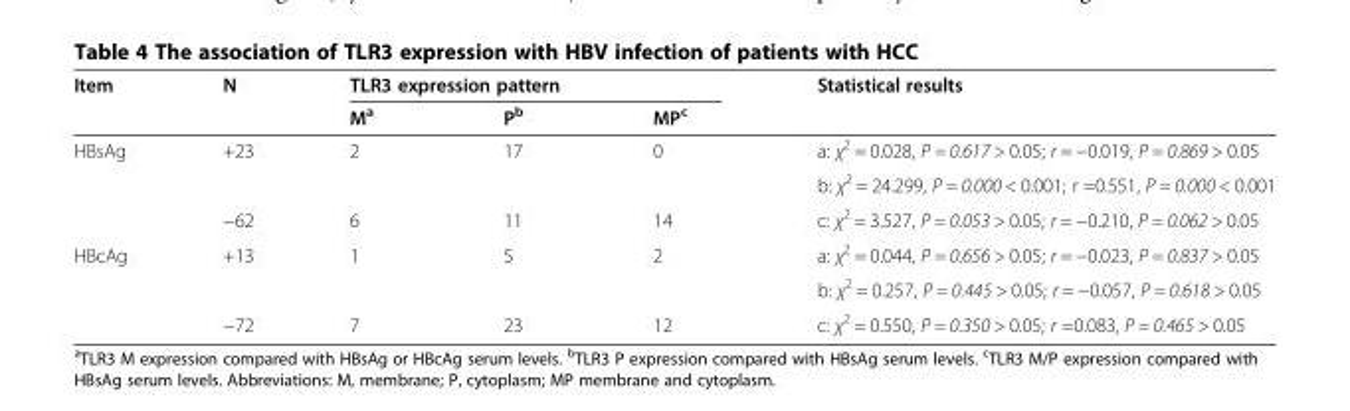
<table><thead><tr><td rowspan="2">Item</td><td rowspan="2">N</td><td colspan="3">TLR3 expression pattern</td><td rowspan="2">Statistical results</td></tr><tr><td>M<sup>a</sup></td><td>P<sup>b</sup></td><td>MP<sup>c</sup></td></tr></thead><tbody><tr><td rowspan="3">HBsAg</td><td rowspan="2">+23</td><td rowspan="2">2</td><td rowspan="2">17</td><td rowspan="2">0</td><td>a: χ<sup>2</sup> = 0.028, P = 0.617 &gt; 0.05; r = −0.019, P = 0.869 &gt; 0.05</td></tr><tr><td>b: χ<sup>2</sup> = 24.299, P = 0.000 &lt; 0.001; r =0.551, P = 0.000 &lt; 0.001</td></tr><tr><td>−62</td><td>6</td><td>11</td><td>14</td><td>c: χ<sup>2</sup> = 3.527, P = 0.053 &gt; 0.05; r = −0.210, P = 0.062 &gt; 0.05</td></tr><tr><td rowspan="3">HBcAg</td><td rowspan="2">+13</td><td rowspan="2">1</td><td rowspan="2">5</td><td rowspan="2">2</td><td>a: χ<sup>2</sup> = 0.044, P = 0.656 &gt; 0.05; r = −0.023, P = 0.837 &gt; 0.05</td></tr><tr><td>b: χ<sup>2</sup> = 0.257, P = 0.445 &gt; 0.05; r = −0.057, P = 0.618 &gt; 0.05</td></tr><tr><td>−72</td><td>7</td><td>23</td><td>12</td><td>c: χ<sup>2</sup> = 0.550, P = 0.350 &gt; 0.05; r =0.083, P = 0.465 &gt; 0.05</td></tr></tbody></table>